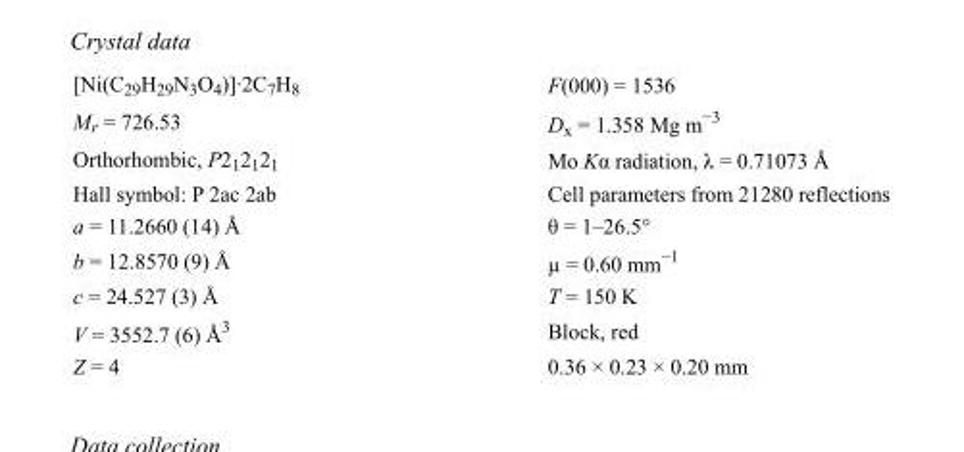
<table><tbody><tr><td>[Ni(C<sub>29</sub>H<sub>29</sub>N<sub>3</sub>O<sub>4</sub>)]·2C<sub>7</sub>H<sub>8</sub></td><td>F(000) = 1536</td></tr><tr><td>M<sub>r</sub> = 726.53</td><td>D<sub>x</sub> = 1.358 Mg m<sup>−3</sup></td></tr><tr><td>Orthorhombic, P2<sub>1</sub>2<sub>1</sub>2<sub>1</sub></td><td>Mo Kα radiation, λ = 0.71073 Å</td></tr><tr><td>Hall symbol: P 2ac 2ab</td><td>Cell parameters from 21280 reflections</td></tr><tr><td>a = 11.2660 (14) Å</td><td>θ = 1–26.5°</td></tr><tr><td>b = 12.8570 (9) Å</td><td>µ = 0.60 mm<sup>−1</sup></td></tr><tr><td>c = 24.527 (3) Å</td><td>T = 150 K</td></tr><tr><td>V = 3552.7 (6) Å<sup>3</sup></td><td>Block, red</td></tr><tr><td>Z = 4</td><td>0.36 × 0.23 × 0.20 mm</td></tr></tbody></table>